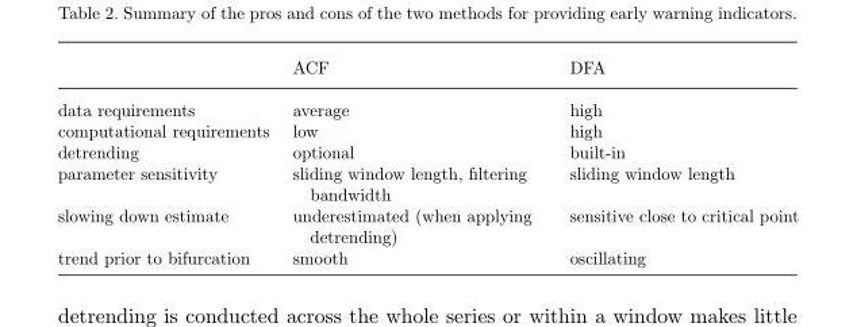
<table><thead><tr><td></td><td>ACF</td><td>DFA</td></tr></thead><tbody><tr><td>data requirements</td><td>average</td><td>high</td></tr><tr><td>computational requirements</td><td>low</td><td>high</td></tr><tr><td>detrending</td><td>optional</td><td>built-in</td></tr><tr><td>parameter sensitivity</td><td>sliding window length, filtering bandwidth</td><td>sliding window length</td></tr><tr><td>slowing down estimate</td><td>underestimated (when applying detrending)</td><td>sensitive close to critical point</td></tr><tr><td>trend prior to bifurcation</td><td>smooth</td><td>oscillating</td></tr></tbody></table>